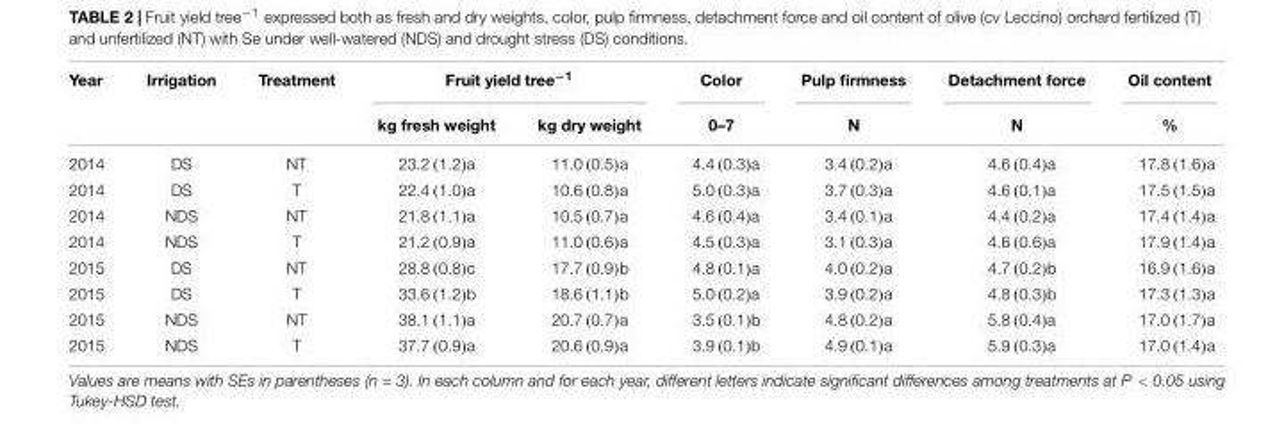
<table><thead><tr><td rowspan="2">Year</td><td rowspan="2">Irrigation</td><td rowspan="2">Treatment</td><td colspan="2">Fruit yield tree<sup>−1</sup></td><td rowspan="2">Color 0–7</td><td rowspan="2">Pulp firmness N</td><td rowspan="2">Detachment force N</td><td rowspan="2">Oil content %</td></tr><tr><td>kg fresh weight</td><td>kg dry weight</td></tr></thead><tbody><tr><td>2014</td><td>DS</td><td>NT</td><td>23.2 (1.2)a</td><td>11.0 (0.5)a</td><td>4.4 (0.3)a</td><td>3.4 (0.2)a</td><td>4.6 (0.4)a</td><td>17.8 (1.6)a</td></tr><tr><td>2014</td><td>DS</td><td>T</td><td>22.4 (1.0)a</td><td>10.6 (0.8)a</td><td>5.0 (0.3)a</td><td>3.7 (0.3)a</td><td>4.6 (0.1)a</td><td>17.5 (1.5)a</td></tr><tr><td>2014</td><td>NDS</td><td>NT</td><td>21.8 (1.1)a</td><td>10.5 (0.7)a</td><td>4.6 (0.4)a</td><td>3.4 (0.1)a</td><td>4.4 (0.2)a</td><td>17.4 (1.4)a</td></tr><tr><td>2014</td><td>NDS</td><td>T</td><td>21.2 (0.9)a</td><td>11.0 (0.6)a</td><td>4.5 (0.3)a</td><td>3.1 (0.3)a</td><td>4.6 (0.6)a</td><td>17.9 (1.4)a</td></tr><tr><td>2015</td><td>DS</td><td>NT</td><td>28.8 (0.8)c</td><td>17.7 (0.9)b</td><td>4.8 (0.1)a</td><td>4.0 (0.2)a</td><td>4.7 (0.2)b</td><td>16.9 (1.6)a</td></tr><tr><td>2015</td><td>DS</td><td>T</td><td>33.6 (1.2)b</td><td>18.6 (1.1)b</td><td>5.0 (0.2)a</td><td>3.9 (0.2)a</td><td>4.8 (0.3)b</td><td>17.3 (1.3)a</td></tr><tr><td>2015</td><td>NDS</td><td>NT</td><td>38.1 (1.1)a</td><td>20.7 (0.7)a</td><td>3.5 (0.1)b</td><td>4.8 (0.2)a</td><td>5.8 (0.4)a</td><td>17.0 (1.7)a</td></tr><tr><td>2015</td><td>NDS</td><td>T</td><td>37.7 (0.9)a</td><td>20.6 (0.9)a</td><td>3.9 (0.1)b</td><td>4.9 (0.1)a</td><td>5.9 (0.3)a</td><td>17.0 (1.4)a</td></tr></tbody></table>